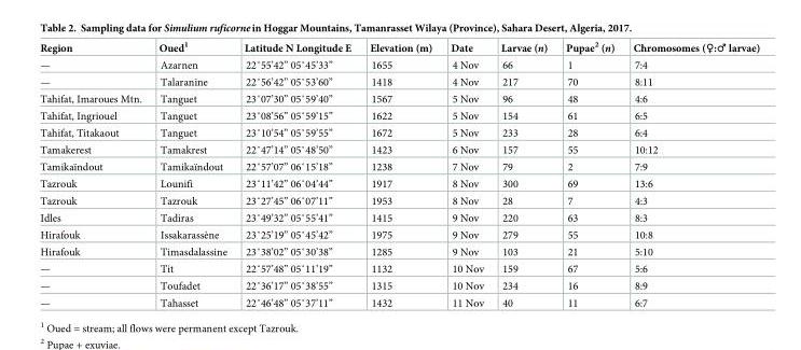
<table><thead><tr><td>Region</td><td>Oued<sup>1</sup></td><td>Latitude N Longitude E</td><td>Elevation (m)</td><td>Date</td><td>Larvae (n)</td><td>Pupae<sup>2</sup> (n)</td><td>Chromosomes (♀:♂ larvae)</td></tr></thead><tbody><tr><td>—</td><td>Azarnen</td><td>22˚55’42” 05˚45’33”</td><td>1655</td><td>4 Nov</td><td>66</td><td>1</td><td>7:4</td></tr><tr><td>—</td><td>Talaranine</td><td>22˚56’42” 05˚53’60”</td><td>1418</td><td>4 Nov</td><td>217</td><td>70</td><td>8:11</td></tr><tr><td>Tahifat, Imaroues Mtn.</td><td>Tanguet</td><td>23˚07’30” 05˚59’40”</td><td>1567</td><td>5 Nov</td><td>96</td><td>48</td><td>4:6</td></tr><tr><td>Tahifat, Ingriouel</td><td>Tanguet</td><td>23˚08’56” 05˚59’15”</td><td>1622</td><td>5 Nov</td><td>154</td><td>61</td><td>6:5</td></tr><tr><td>Tahifat, Titakaout</td><td>Tanguet</td><td>23˚10’54” 05˚59’55”</td><td>1672</td><td>5 Nov</td><td>233</td><td>28</td><td>6:4</td></tr><tr><td>Tamakerest</td><td>Tamakrest</td><td>22˚47’14” 05˚48’50”</td><td>1423</td><td>6 Nov</td><td>157</td><td>55</td><td>10:12</td></tr><tr><td>Tamikaïndout</td><td>Tamikaïndout</td><td>22˚57’07” 06˚15’18”</td><td>1238</td><td>7 Nov</td><td>79</td><td>2</td><td>7:9</td></tr><tr><td>Tazrouk</td><td>Lounifi</td><td>23˚11’42” 06˚04’44”</td><td>1917</td><td>8 Nov</td><td>300</td><td>69</td><td>13:6</td></tr><tr><td>Tazrouk</td><td>Tazrouk</td><td>23˚27’45” 06˚07’11”</td><td>1953</td><td>8 Nov</td><td>28</td><td>7</td><td>4:3</td></tr><tr><td>Idles</td><td>Tadiras</td><td>23˚49’32” 05˚55’41”</td><td>1415</td><td>9 Nov</td><td>220</td><td>63</td><td>8:3</td></tr><tr><td>Hirafouk</td><td>Issakarassène</td><td>23˚25’19” 05˚45’42”</td><td>1975</td><td>9 Nov</td><td>279</td><td>55</td><td>10:8</td></tr><tr><td>Hirafouk</td><td>Timasdalassine</td><td>23˚38’02” 05˚30’38”</td><td>1285</td><td>9 Nov</td><td>103</td><td>21</td><td>5:10</td></tr><tr><td>—</td><td>Tit</td><td>22˚57’48” 05˚11’19”</td><td>1132</td><td>10 Nov</td><td>159</td><td>67</td><td>5:6</td></tr><tr><td>—</td><td>Toufadet</td><td>22˚36’17” 05˚38’55”</td><td>1315</td><td>10 Nov</td><td>234</td><td>16</td><td>8:9</td></tr><tr><td>—</td><td>Tahasset</td><td>22˚46’48” 05˚37’11”</td><td>1432</td><td>11 Nov</td><td>40</td><td>11</td><td>6:7</td></tr></tbody></table>